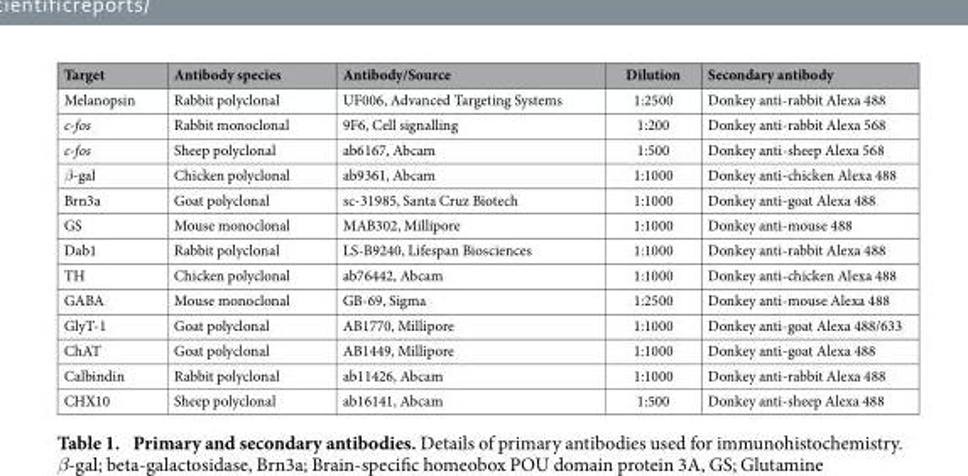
<table><thead><tr><td>Target</td><td>Antibody species</td><td>Antibody/Source</td><td>Dilution</td><td>Secondary antibody</td></tr></thead><tbody><tr><td>Melanopsin</td><td>Rabbit polyclonal</td><td>UF006, Advanced Targeting Systems</td><td>1:2500</td><td>Donkey anti-rabbit Alexa 488</td></tr><tr><td>c-fos</td><td>Rabbit monoclonal</td><td>9F6, Cell signalling</td><td>1:200</td><td>Donkey anti-rabbit Alexa 568</td></tr><tr><td>c-fos</td><td>Sheep polyclonal</td><td>ab6167, Abcam</td><td>1:500</td><td>Donkey anti-sheep Alexa 568</td></tr><tr><td>β-gal</td><td>Chicken polyclonal</td><td>ab9361, Abcam</td><td>1:1000</td><td>Donkey anti-chicken Alexa 488</td></tr><tr><td>Brn3a</td><td>Goat polyclonal</td><td>sc-31985, Santa Cruz Biotech</td><td>1:1000</td><td>Donkey anti-goat Alexa 488</td></tr><tr><td>GS</td><td>Mouse monoclonal</td><td>MAB302, Millipore</td><td>1:1000</td><td>Donkey anti-mouse 488</td></tr><tr><td>Dab1</td><td>Rabbit polyclonal</td><td>LS-B9240, Lifespan Biosciences</td><td>1:1000</td><td>Donkey anti-rabbit Alexa 488</td></tr><tr><td>TH</td><td>Chicken polyclonal</td><td>ab76442, Abcam</td><td>1:1000</td><td>Donkey anti-chicken Alexa 488</td></tr><tr><td>GABA</td><td>Mouse monoclonal</td><td>GB-69, Sigma</td><td>1:2500</td><td>Donkey anti-mouse Alexa 488</td></tr><tr><td>GlyT-1</td><td>Goat polyclonal</td><td>AB1770, Millipore</td><td>1:1000</td><td>Donkey anti-goat Alexa 488/633</td></tr><tr><td>ChAT</td><td>Goat polyclonal</td><td>AB1449, Millipore</td><td>1:1000</td><td>Donkey anti-goat Alexa 488</td></tr><tr><td>Calbindin</td><td>Rabbit polyclonal</td><td>ab11426, Abcam</td><td>1:1000</td><td>Donkey anti-rabbit Alexa 488</td></tr><tr><td>CHX10</td><td>Sheep polyclonal</td><td>ab16141, Abcam</td><td>1:500</td><td>Donkey anti-sheep Alexa 488</td></tr></tbody></table>